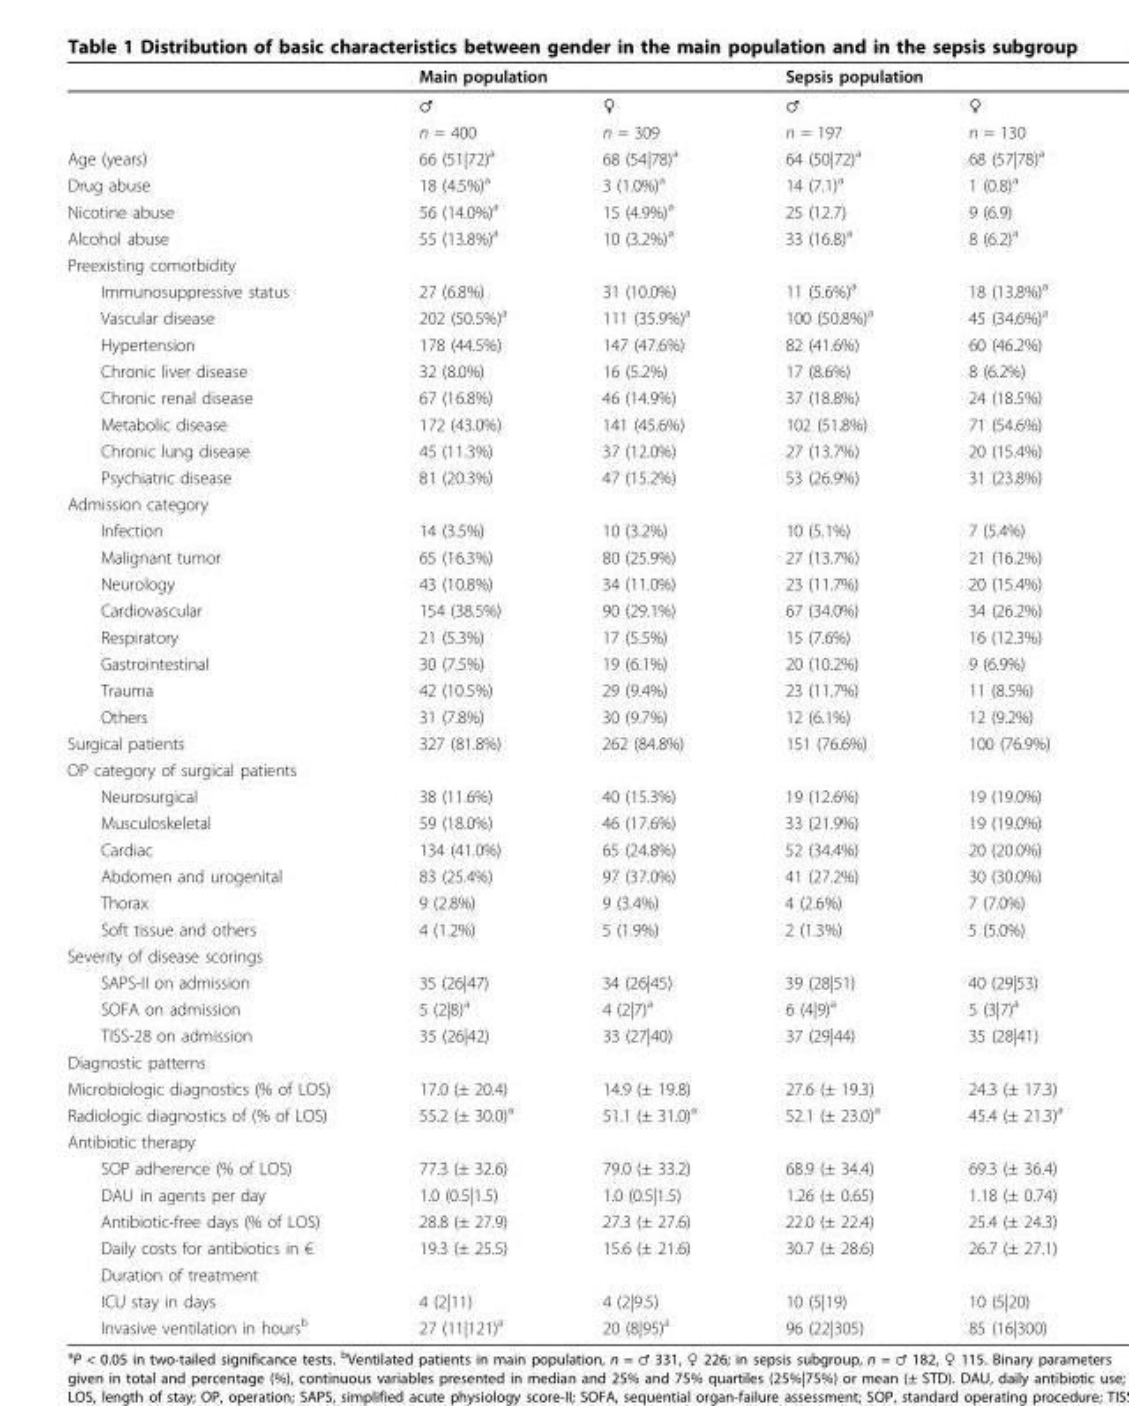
<table><thead><tr><td rowspan="2"></td><td colspan="2">Main population</td><td colspan="2">Sepsis population</td></tr><tr><td>♂</td><td>♀</td><td>♂</td><td>♀</td></tr></thead><tbody><tr><td></td><td>n = 400</td><td>n = 309</td><td>n = 197</td><td>n = 130</td></tr><tr><td>Age (years)</td><td>66 (51|72)<sup>a</sup></td><td>68 (54|78)<sup>a</sup></td><td>64 (50|72)<sup>a</sup></td><td>68 (57|78)<sup>a</sup></td></tr><tr><td>Drug abuse</td><td>18 (4.5%)<sup>a</sup></td><td>3 (1.0%)<sup>a</sup></td><td>14 (7.1)<sup>a</sup></td><td>1 (0.8)<sup>a</sup></td></tr><tr><td>Nicotine abuse</td><td>56 (14.0%)<sup>a</sup></td><td>15 (4.9%)<sup>a</sup></td><td>25 (12.7)</td><td>9 (6.9)</td></tr><tr><td>Alcohol abuse</td><td>55 (13.8%)<sup>a</sup></td><td>10 (3.2%)<sup>a</sup></td><td>33 (16.8)<sup>a</sup></td><td>8 (6.2)<sup>a</sup></td></tr><tr><td colspan="5">Preexisting comorbidity</td></tr><tr><td>Immunosuppressive status</td><td>27 (6.8%)</td><td>31 (10.0%)</td><td>11 (5.6%)<sup>a</sup></td><td>18 (13.8%)<sup>a</sup></td></tr><tr><td>Vascular disease</td><td>202 (50.5%)<sup>a</sup></td><td>111 (35.9%)<sup>a</sup></td><td>100 (50.8%)<sup>a</sup></td><td>45 (34.6%)<sup>a</sup></td></tr><tr><td>Hypertension</td><td>178 (44.5%)</td><td>147 (47.6%)</td><td>82 (41.6%)</td><td>60 (46.2%)</td></tr><tr><td>Chronic liver disease</td><td>32 (8.0%)</td><td>16 (5.2%)</td><td>17 (8.6%)</td><td>8 (6.2%)</td></tr><tr><td>Chronic renal disease</td><td>67 (16.8%)</td><td>46 (14.9%)</td><td>37 (18.8%)</td><td>24 (18.5%)</td></tr><tr><td>Metabolic disease</td><td>172 (43.0%)</td><td>141 (45.6%)</td><td>102 (51.8%)</td><td>71 (54.6%)</td></tr><tr><td>Chronic lung disease</td><td>45 (11.3%)</td><td>37 (12.0%)</td><td>27 (13.7%)</td><td>20 (15.4%)</td></tr><tr><td>Psychiatric disease</td><td>81 (20.3%)</td><td>47 (15.2%)</td><td>53 (26.9%)</td><td>31 (23.8%)</td></tr><tr><td colspan="5">Admission category</td></tr><tr><td>Infection</td><td>14 (3.5%)</td><td>10 (3.2%)</td><td>10 (5.1%)</td><td>7 (5.4%)</td></tr><tr><td>Malignant tumor</td><td>65 (16.3%)</td><td>80 (25.9%)</td><td>27 (13.7%)</td><td>21 (16.2%)</td></tr><tr><td>Neurology</td><td>43 (10.8%)</td><td>34 (11.0%)</td><td>23 (11.7%)</td><td>20 (15.4%)</td></tr><tr><td>Cardiovascular</td><td>154 (38.5%)</td><td>90 (29.1%)</td><td>67 (34.0%)</td><td>34 (26.2%)</td></tr><tr><td>Respiratory</td><td>21 (5.3%)</td><td>17 (5.5%)</td><td>15 (7.6%)</td><td>16 (12.3%)</td></tr><tr><td>Gastrointestinal</td><td>30 (7.5%)</td><td>19 (6.1%)</td><td>20 (10.2%)</td><td>9 (6.9%)</td></tr><tr><td>Trauma</td><td>42 (10.5%)</td><td>29 (9.4%)</td><td>23 (11.7%)</td><td>11 (8.5%)</td></tr><tr><td>Others</td><td>31 (7.8%)</td><td>30 (9.7%)</td><td>12 (6.1%)</td><td>12 (9.2%)</td></tr><tr><td>Surgical patients</td><td>327 (81.8%)</td><td>262 (84.8%)</td><td>151 (76.6%)</td><td>100 (76.9%)</td></tr><tr><td colspan="5">OP category of surgical patients</td></tr><tr><td>Neurosurgical</td><td>38 (11.6%)</td><td>40 (15.3%)</td><td>19 (12.6%)</td><td>19 (19.0%)</td></tr><tr><td>Musculoskeletal</td><td>59 (18.0%)</td><td>46 (17.6%)</td><td>33 (21.9%)</td><td>19 (19.0%)</td></tr><tr><td>Cardiac</td><td>134 (41.0%)</td><td>65 (24.8%)</td><td>52 (34.4%)</td><td>20 (20.0%)</td></tr><tr><td>Abdomen and urogenital</td><td>83 (25.4%)</td><td>97 (37.0%)</td><td>41 (27.2%)</td><td>30 (30.0%)</td></tr><tr><td>Thorax</td><td>9 (2.8%)</td><td>9 (3.4%)</td><td>4 (2.6%)</td><td>7 (7.0%)</td></tr><tr><td>Soft tissue and others</td><td>4 (1.2%)</td><td>5 (1.9%)</td><td>2 (1.3%)</td><td>5 (5.0%)</td></tr><tr><td colspan="5">Severity of disease scorings</td></tr><tr><td>SAPS-II on admission</td><td>35 (26|47)</td><td>34 (26|45)</td><td>39 (28|51)</td><td>40 (29|53)</td></tr><tr><td>SOFA on admission</td><td>5 (2|8)<sup>a</sup></td><td>4 (2|7)<sup>a</sup></td><td>6 (4|9)<sup>a</sup></td><td>5 (3|7)<sup>a</sup></td></tr><tr><td>TISS-28 on admission</td><td>35 (26|42)</td><td>33 (27|40)</td><td>37 (29|44)</td><td>35 (28|41)</td></tr><tr><td colspan="5">Diagnostic patterns</td></tr><tr><td>Microbiologic diagnostics (% of LOS)</td><td>17.0 (± 20.4)</td><td>14.9 (± 19.8)</td><td>27.6 (± 19.3)</td><td>24.3 (± 17.3)</td></tr><tr><td>Radiologic diagnostics of (% of LOS)</td><td>55.2 (± 30.0)<sup>a</sup></td><td>51.1 (± 31.0)<sup>a</sup></td><td>52.1 (± 23.0)<sup>a</sup></td><td>45.4 (± 21.3)<sup>a</sup></td></tr><tr><td colspan="5">Antibiotic therapy</td></tr><tr><td>SOP adherence (% of LOS)</td><td>77.3 (± 32.6)</td><td>79.0 (± 33.2)</td><td>68.9 (± 34.4)</td><td>69.3 (± 36.4)</td></tr><tr><td>DAU in agents per day</td><td>1.0 (0.5|1.5)</td><td>1.0 (0.5|1.5)</td><td>1.26 (± 0.65)</td><td>1.18 (± 0.74)</td></tr><tr><td>Antibiotic-free days (% of LOS)</td><td>28.8 (± 27.9)</td><td>27.3 (± 27.6)</td><td>22.0 (± 22.4)</td><td>25.4 (± 24.3)</td></tr><tr><td>Daily costs for antibiotics in €</td><td>19.3 (± 25.5)</td><td>15.6 (± 21.6)</td><td>30.7 (± 28.6)</td><td>26.7 (± 27.1)</td></tr><tr><td colspan="5">Duration of treatment</td></tr><tr><td>ICU stay in days</td><td>4 (2|11)</td><td>4 (2|9.5)</td><td>10 (5|19)</td><td>10 (5|20)</td></tr><tr><td>Invasive ventilation in hours<sup>b</sup></td><td>27 (11|121)<sup>a</sup></td><td>20 (8|95)<sup>a</sup></td><td>96 (22|305)</td><td>85 (16|300)</td></tr></tbody></table>